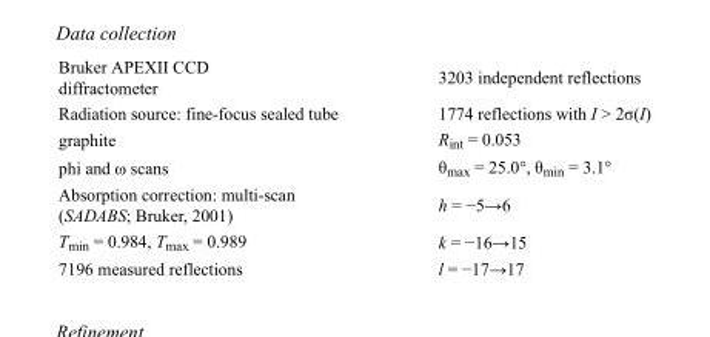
<table><tbody><tr><td>Bruker APEXII CCD diffractometer</td><td>3203 independent reflections</td></tr><tr><td>Radiation source: fine-focus sealed tube</td><td>1774 reflections with I &gt; 2σ(I)</td></tr><tr><td>graphite</td><td>R<sub>int</sub> = 0.053</td></tr><tr><td>phi and ω scans</td><td>θ<sub>max</sub> = 25.0°, θ<sub>min</sub> = 3.1°</td></tr><tr><td>Absorption correction: multi-scan (SADABS; Bruker, 2001)</td><td>h = −5→6</td></tr><tr><td>T<sub>min</sub> = 0.984, T<sub>max</sub> = 0.989</td><td>k = −16→15</td></tr><tr><td>7196 measured reflections</td><td>l = −17→17</td></tr></tbody></table>